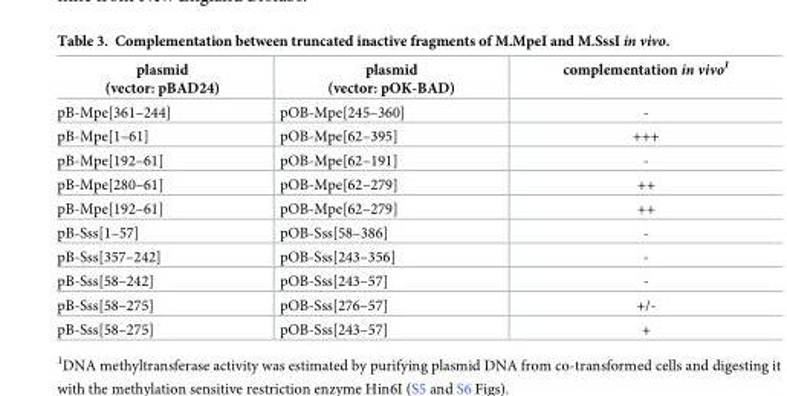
<table><thead><tr><td>plasmid (vector: pBAD24)</td><td>plasmid (vector: pOK-BAD)</td><td>complementation in vivo<sup>1</sup></td></tr></thead><tbody><tr><td>pB-Mpe[361–244]</td><td>pOB-Mpe[245–360]</td><td>-</td></tr><tr><td>pB-Mpe[1–61]</td><td>pOB-Mpe[62–395]</td><td>+++</td></tr><tr><td>pB-Mpe[192–61]</td><td>pOB-Mpe[62–191]</td><td>-</td></tr><tr><td>pB-Mpe[280–61]</td><td>pOB-Mpe[62–279]</td><td>++</td></tr><tr><td>pB-Mpe[192–61]</td><td>pOB-Mpe[62–279]</td><td>++</td></tr><tr><td>pB-Sss[1–57]</td><td>pOB-Sss[58–386]</td><td>-</td></tr><tr><td>pB-Sss[357–242]</td><td>pOB-Sss[243–356]</td><td>-</td></tr><tr><td>pB-Sss[58–242]</td><td>pOB-Sss[243–57]</td><td>-</td></tr><tr><td>pB-Sss[58–275]</td><td>pOB-Sss[276–57]</td><td>+/-</td></tr><tr><td>pB-Sss[58–275]</td><td>pOB-Sss[243–57]</td><td>+</td></tr></tbody></table>